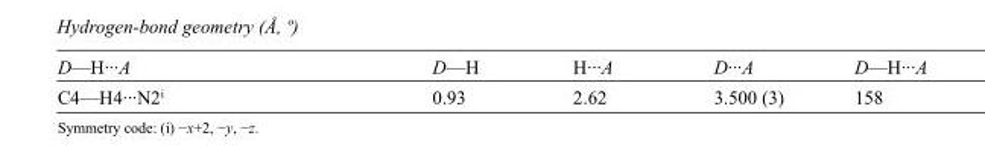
<table><tbody><tr><td>D—H···A</td><td>D—H</td><td>H···A</td><td>D···A</td><td>D—H···A</td></tr><tr><td>C4—H4···N2<sup>i</sup></td><td>0.93</td><td>2.62</td><td>3.500 (3)</td><td>158</td></tr></tbody></table>